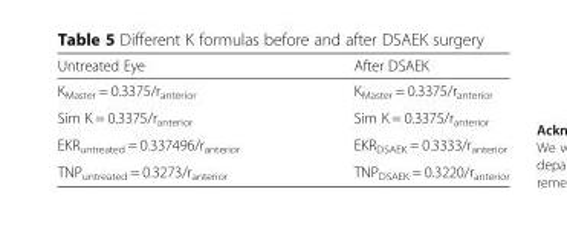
<table><thead><tr><td>Untreated Eye</td><td>After DSAEK</td></tr></thead><tbody><tr><td>K<sub>Master</sub> = 0.3375/r<sub>anterior</sub></td><td>K<sub>Master</sub> = 0.3375/r<sub>anterior</sub></td></tr><tr><td>Sim K = 0.3375/r<sub>anterior</sub></td><td>Sim K = 0.3375/r<sub>anterior</sub></td></tr><tr><td>EKR<sub>untreated</sub> = 0.337496/r<sub>anterior</sub></td><td>EKR<sub>DSAEK</sub> = 0.3333/r<sub>anterior</sub></td></tr><tr><td>TNP<sub>untreated</sub> = 0.3273/r<sub>anterior</sub></td><td>TNP<sub>DSAEK</sub> = 0.3220/r<sub>anterior</sub></td></tr></tbody></table>